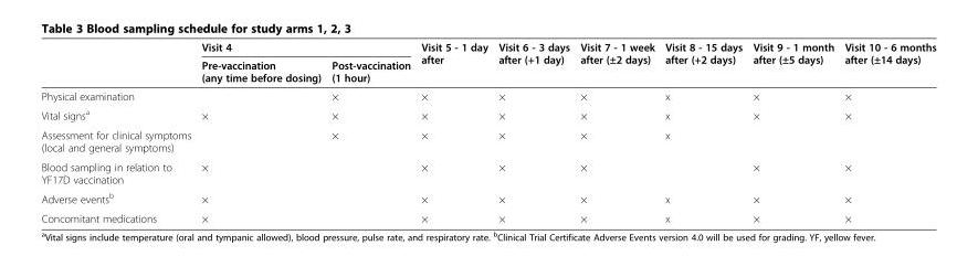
<table><thead><tr><td rowspan="2"></td><td colspan="2">Visit 4</td><td rowspan="2">Visit 5 - 1 day after</td><td rowspan="2">Visit 6 - 3 days after (+1 day)</td><td rowspan="2">Visit 7 - 1 week after (±2 days)</td><td rowspan="2">Visit 8 - 15 days after (+2 days)</td><td rowspan="2">Visit 9 - 1 month after (±5 days)</td><td rowspan="2">Visit 10 - 6 months after (±14 days)</td></tr><tr><td>Pre-vaccination (any time before dosing)</td><td>Post-vaccination (1 hour)</td></tr></thead><tbody><tr><td>Physical examination</td><td></td><td>×</td><td>×</td><td>×</td><td>×</td><td>x</td><td>×</td><td>×</td></tr><tr><td>Vital signs<sup>a</sup></td><td>×</td><td>×</td><td>×</td><td>×</td><td>×</td><td>x</td><td>×</td><td>×</td></tr><tr><td>Assessment for clinical symptoms (local and general symptoms)</td><td></td><td>×</td><td>×</td><td>×</td><td>×</td><td>x</td><td></td><td></td></tr><tr><td>Blood sampling in relation to YF17D vaccination</td><td>×</td><td></td><td>×</td><td>×</td><td>×</td><td></td><td>×</td><td>×</td></tr><tr><td>Adverse events<sup>b</sup></td><td>×</td><td></td><td>×</td><td>×</td><td>×</td><td>x</td><td>×</td><td>×</td></tr><tr><td>Concomitant medications</td><td>×</td><td></td><td>×</td><td>×</td><td>×</td><td>x</td><td>×</td><td>×</td></tr></tbody></table>